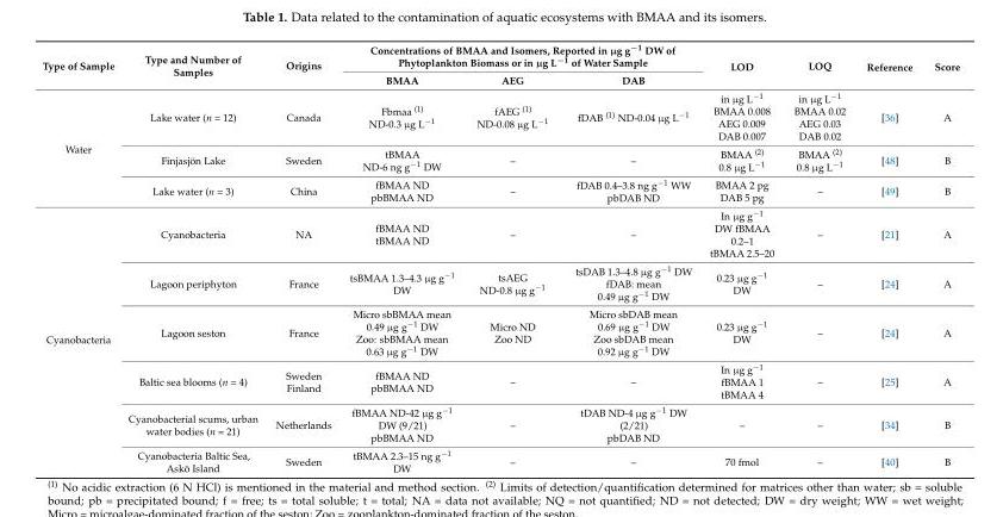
<table><thead><tr><td rowspan="2">Type of Sample</td><td rowspan="2">Type and Number of Samples</td><td rowspan="2">Origins</td><td colspan="3">Concentrations of BMAA and Isomers, Reported in µg g<sup>−1</sup> DW of Phytoplankton Biomass or in µg L<sup>−1</sup> of Water Sample</td><td rowspan="2">LOD</td><td rowspan="2">LOQ</td><td rowspan="2">Reference</td><td rowspan="2">Score</td></tr><tr><td>BMAA</td><td>AEG</td><td>DAB</td></tr></thead><tbody><tr><td rowspan="3">Water</td><td>Lake water (n = 12)</td><td>Canada</td><td>Fbmaa <sup>(1)</sup> ND-0.3 µg L<sup>−1</sup></td><td>fAEG <sup>(1)</sup> ND-0.08 µg L<sup>−1</sup></td><td>fDAB <sup>(1)</sup> ND-0.04 µg L<sup>−1</sup></td><td>in µg L<sup>−1</sup> BMAA 0.008 AEG 0.009 DAB 0.007</td><td>in µg L<sup>−1</sup> BMAA 0.02 AEG 0.03 DAB 0.02</td><td>[36]</td><td>A</td></tr><tr><td>Finjasjön Lake</td><td>Sweden</td><td>tBMAA ND-6 ng g<sup>−1</sup> DW</td><td>–</td><td>–</td><td>BMAA <sup>(2)</sup> 0.8 µg L<sup>−1</sup></td><td>BMAA <sup>(2)</sup> 0.8 µg L<sup>−1</sup></td><td>[48]</td><td>B</td></tr><tr><td>Lake water (n = 3)</td><td>China</td><td>fBMAA ND pbBMAA ND</td><td>–</td><td>fDAB 0.4–3.8 ng g<sup>−1</sup> WW pbDAB ND</td><td>BMAA 2 pg DAB 5 pg</td><td>–</td><td>[49]</td><td>B</td></tr><tr><td rowspan="6">Cyanobacteria</td><td>Cyanobacteria</td><td>NA</td><td>fBMAA ND tBMAA ND</td><td>–</td><td>–</td><td>In µg g<sup>−1</sup> DW fBMAA 0.2–1 tBMAA 2.5–20</td><td>–</td><td>[21]</td><td>A</td></tr><tr><td>Lagoon periphyton</td><td>France</td><td>tsBMAA 1.3–4.3 µg g<sup>−1</sup> DW</td><td>tsAEG ND-0.8 µg g<sup>−1</sup></td><td>tsDAB 1.3–4.8 µg g<sup>−1</sup> DW fDAB: mean 0.49 µg g<sup>−1</sup> DW</td><td>0.23 µg g<sup>−1</sup> DW</td><td>–</td><td>[24]</td><td>A</td></tr><tr><td>Lagoon seston</td><td>France</td><td>Micro sbBMAA mean 0.49 µg g<sup>−1</sup> DW Zoo: sbBMAA mean 0.63 µg g<sup>−1</sup> DW</td><td>Micro ND Zoo ND</td><td>Micro sbDAB mean 0.69 µg g<sup>−1</sup> DW Zoo sbDAB mean 0.92 µg g<sup>−1</sup> DW</td><td>0.23 µg g<sup>−1</sup> DW</td><td>–</td><td>[24]</td><td>A</td></tr><tr><td>Baltic sea blooms (n = 4)</td><td>Sweden Finland</td><td>fBMAA ND pbBMAA ND</td><td>–</td><td>–</td><td>In µg g<sup>−1</sup> fBMAA 1 tBMAA 4</td><td>–</td><td>[25]</td><td>A</td></tr><tr><td>Cyanobacterial scums, urban water bodies (n = 21)</td><td>Netherlands</td><td>fBMAA ND-42 µg g<sup>−1</sup> DW (9/21) pbBMAA ND</td><td>–</td><td>tDAB ND-4 µg g<sup>−1</sup> DW (2/21) pbDAB ND</td><td>–</td><td>–</td><td>[34]</td><td>B</td></tr><tr><td>Cyanobacteria Baltic Sea, Askö Island</td><td>Sweden</td><td>tBMAA 2.3–15 ng g<sup>−1</sup> DW</td><td>–</td><td>–</td><td>70 fmol</td><td>–</td><td>[40]</td><td>B</td></tr></tbody></table>